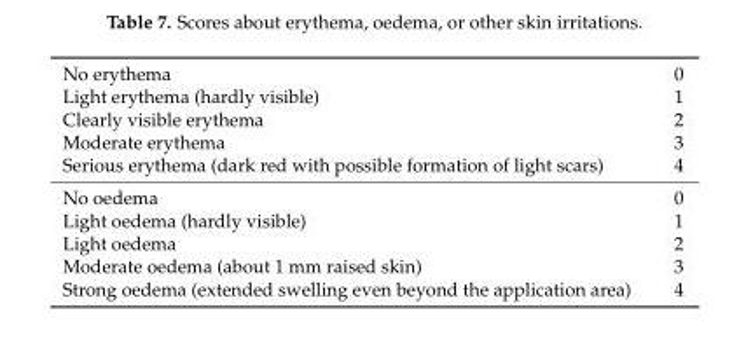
<table><tbody><tr><td>No erythema</td><td>0</td></tr><tr><td>Light erythema (hardly visible)</td><td>1</td></tr><tr><td>Clearly visible erythema</td><td>2</td></tr><tr><td>Moderate erythema</td><td>3</td></tr><tr><td>Serious erythema (dark red with possible formation of light scars)</td><td>4</td></tr><tr><td>No oedema</td><td>0</td></tr><tr><td>Light oedema (hardly visible)</td><td>1</td></tr><tr><td>Light oedema</td><td>2</td></tr><tr><td>Moderate oedema (about 1 mm raised skin)</td><td>3</td></tr><tr><td>Strong oedema (extended swelling even beyond the application area)</td><td>4</td></tr></tbody></table>